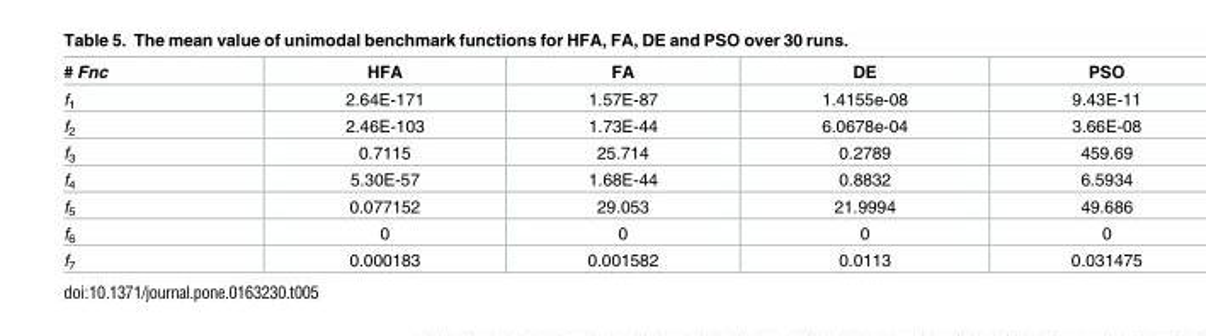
<table><thead><tr><td># Fnc</td><td>HFA</td><td>FA</td><td>DE</td><td>PSO</td></tr></thead><tbody><tr><td>f<sub>1</sub></td><td>2.64E-171</td><td>1.57E-87</td><td>1.4155e-08</td><td>9.43E-11</td></tr><tr><td>f<sub>2</sub></td><td>2.46E-103</td><td>1.73E-44</td><td>6.0678e-04</td><td>3.66E-08</td></tr><tr><td>f<sub>3</sub></td><td>0.7115</td><td>25.714</td><td>0.2789</td><td>459.69</td></tr><tr><td>f<sub>4</sub></td><td>5.30E-57</td><td>1.68E-44</td><td>0.8832</td><td>6.5934</td></tr><tr><td>f<sub>5</sub></td><td>0.077152</td><td>29.053</td><td>21.9994</td><td>49.686</td></tr><tr><td>f<sub>6</sub></td><td>0</td><td>0</td><td>0</td><td>0</td></tr><tr><td>f<sub>7</sub></td><td>0.000183</td><td>0.001582</td><td>0.0113</td><td>0.031475</td></tr></tbody></table>